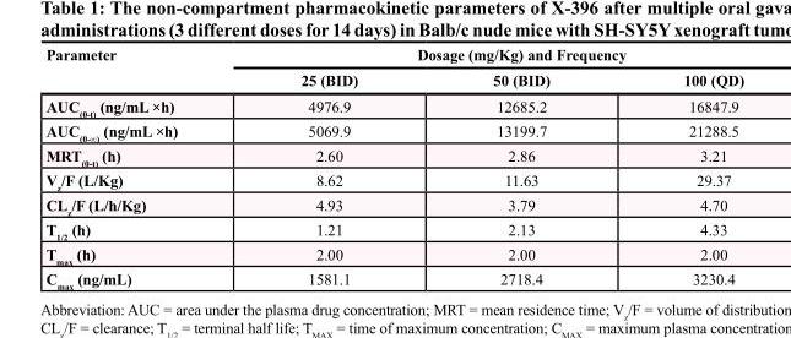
<table><thead><tr><td rowspan="2">Parameter</td><td colspan="3">Dosage (mg/Kg) and Frequency</td></tr><tr><td>25 (BID)</td><td>50 (BID)</td><td>100 (QD)</td></tr></thead><tbody><tr><td>AUC<sub>(0-t)</sub> (ng/mL ×h)</td><td>4976.9</td><td>12685.2</td><td>16847.9</td></tr><tr><td>AUC<sub>(0-∞)</sub> (ng/mL ×h)</td><td>5069.9</td><td>13199.7</td><td>21288.5</td></tr><tr><td>MRT<sub>(0-t)</sub> (h)</td><td>2.60</td><td>2.86</td><td>3.21</td></tr><tr><td>V<sub>z</sub>/F (L/Kg)</td><td>8.62</td><td>11.63</td><td>29.37</td></tr><tr><td>CL<sub>z</sub>/F (L/h/Kg)</td><td>4.93</td><td>3.79</td><td>4.70</td></tr><tr><td>T<sub>1/2</sub> (h)</td><td>1.21</td><td>2.13</td><td>4.33</td></tr><tr><td>T<sub>max</sub> (h)</td><td>2.00</td><td>2.00</td><td>2.00</td></tr><tr><td>C<sub>max</sub> (ng/mL)</td><td>1581.1</td><td>2718.4</td><td>3230.4</td></tr></tbody></table>